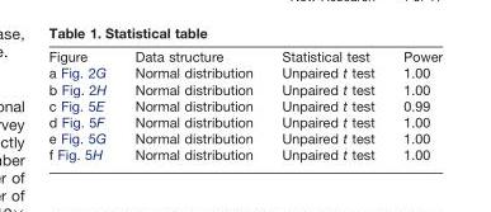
<table><thead><tr><td>Figure</td><td>Data structure</td><td>Statistical test</td><td>Power</td></tr></thead><tbody><tr><td>a Fig. 2G</td><td>Normal distribution</td><td>Unpaired t test</td><td>1.00</td></tr><tr><td>b Fig. 2H</td><td>Normal distribution</td><td>Unpaired t test</td><td>1.00</td></tr><tr><td>c Fig. 5E</td><td>Normal distribution</td><td>Unpaired t test</td><td>0.99</td></tr><tr><td>d Fig. 5F</td><td>Normal distribution</td><td>Unpaired t test</td><td>1.00</td></tr><tr><td>e Fig. 5G</td><td>Normal distribution</td><td>Unpaired t test</td><td>1.00</td></tr><tr><td>f Fig. 5H</td><td>Normal distribution</td><td>Unpaired t test</td><td>1.00</td></tr></tbody></table>